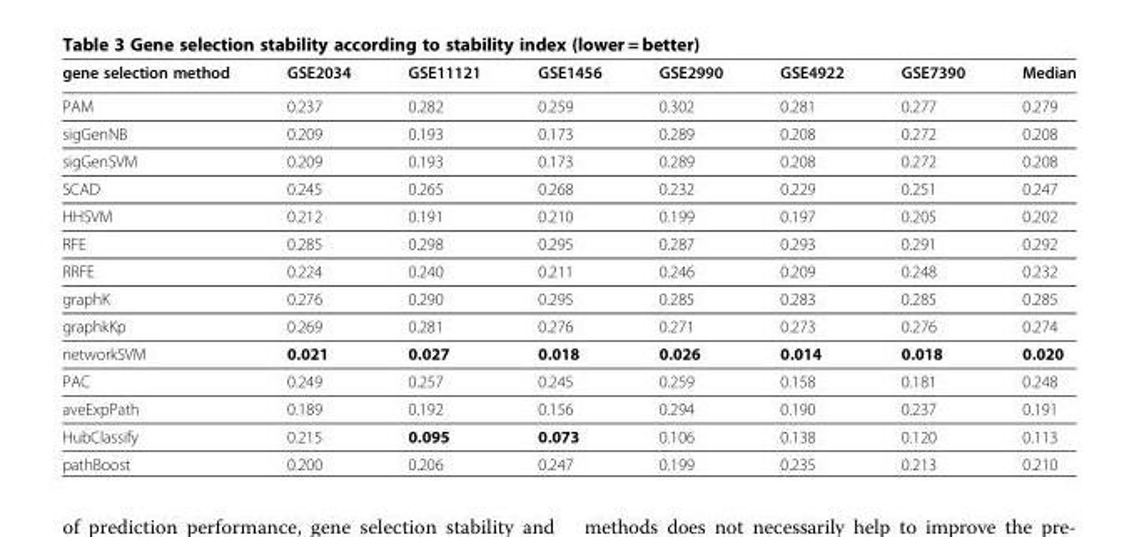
<table><thead><tr><td>gene selection method</td><td>GSE2034</td><td>GSE11121</td><td>GSE1456</td><td>GSE2990</td><td>GSE4922</td><td>GSE7390</td><td>Median</td></tr></thead><tbody><tr><td>PAM</td><td>0.237</td><td>0.282</td><td>0.259</td><td>0.302</td><td>0.281</td><td>0.277</td><td>0.279</td></tr><tr><td>sigGenNB</td><td>0.209</td><td>0.193</td><td>0.173</td><td>0.289</td><td>0.208</td><td>0.272</td><td>0.208</td></tr><tr><td>sigGenSVM</td><td>0.209</td><td>0.193</td><td>0.173</td><td>0.289</td><td>0.208</td><td>0.272</td><td>0.208</td></tr><tr><td>SCAD</td><td>0.245</td><td>0.265</td><td>0.268</td><td>0.232</td><td>0.229</td><td>0.251</td><td>0.247</td></tr><tr><td>HHSVM</td><td>0.212</td><td>0.191</td><td>0.210</td><td>0.199</td><td>0.197</td><td>0.205</td><td>0.202</td></tr><tr><td>RFE</td><td>0.285</td><td>0.298</td><td>0.295</td><td>0.287</td><td>0.293</td><td>0.291</td><td>0.292</td></tr><tr><td>RRFE</td><td>0.224</td><td>0.240</td><td>0.211</td><td>0.246</td><td>0.209</td><td>0.248</td><td>0.232</td></tr><tr><td>graphK</td><td>0.276</td><td>0.290</td><td>0.295</td><td>0.285</td><td>0.283</td><td>0.285</td><td>0.285</td></tr><tr><td>graphkKp</td><td>0.269</td><td>0.281</td><td>0.276</td><td>0.271</td><td>0.273</td><td>0.276</td><td>0.274</td></tr><tr><td>networkSVM</td><td>0.021</td><td>0.027</td><td>0.018</td><td>0.026</td><td>0.014</td><td>0.018</td><td>0.020</td></tr><tr><td>PAC</td><td>0.249</td><td>0.257</td><td>0.245</td><td>0.259</td><td>0.158</td><td>0.181</td><td>0.248</td></tr><tr><td>aveExpPath</td><td>0.189</td><td>0.192</td><td>0.156</td><td>0.294</td><td>0.190</td><td>0.237</td><td>0.191</td></tr><tr><td>HubClassify</td><td>0.215</td><td>0.095</td><td>0.073</td><td>0.106</td><td>0.138</td><td>0.120</td><td>0.113</td></tr><tr><td>pathBoost</td><td>0.200</td><td>0.206</td><td>0.247</td><td>0.199</td><td>0.235</td><td>0.213</td><td>0.210</td></tr></tbody></table>